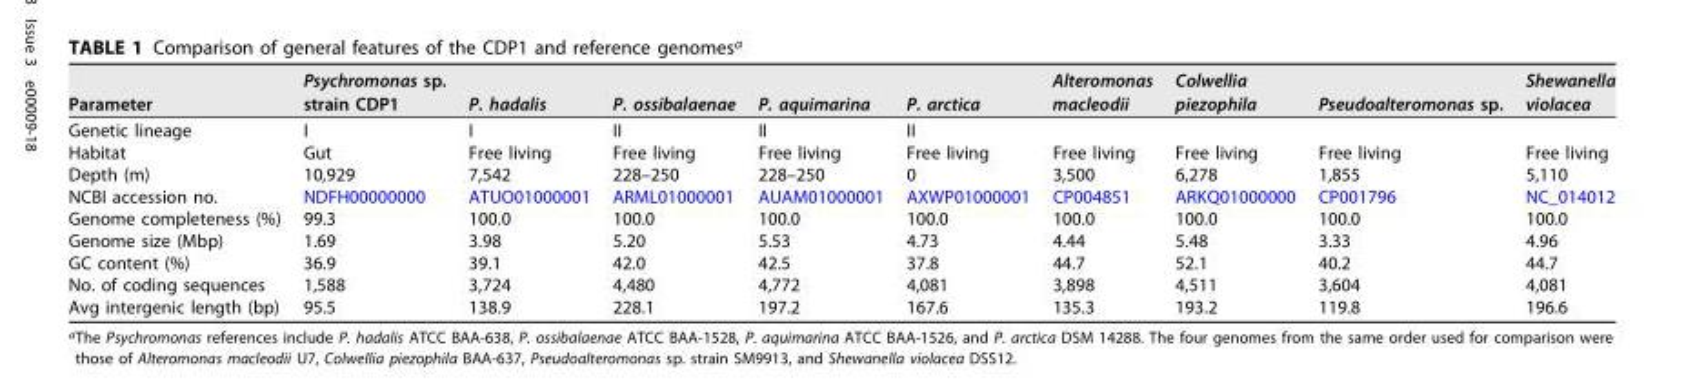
<table><thead><tr><td>Parameter</td><td>Psychromonas sp. strain CDP1</td><td>P. hadalis</td><td>P. ossibalaenae</td><td>P. aquimarina</td><td>P. arctica</td><td>Alteromonas macleodii</td><td>Colwellia piezophila</td><td>Pseudoalteromonas sp.</td><td>Shewanella violacea</td></tr></thead><tbody><tr><td>Genetic lineage</td><td>I</td><td>I</td><td>II</td><td>II</td><td>II</td><td></td><td></td><td></td><td></td></tr><tr><td>Habitat</td><td>Gut</td><td>Free living</td><td>Free living</td><td>Free living</td><td>Free living</td><td>Free living</td><td>Free living</td><td>Free living</td><td>Free living</td></tr><tr><td>Depth (m)</td><td>10,929</td><td>7,542</td><td>228–250</td><td>228–250</td><td>0</td><td>3,500</td><td>6,278</td><td>1,855</td><td>5,110</td></tr><tr><td>NCBI accession no.</td><td>NDFH00000000</td><td>ATUO01000001</td><td>ARML01000001</td><td>AUAM01000001</td><td>AXWP01000001</td><td>CP004851</td><td>ARKQ01000000</td><td>CP001796</td><td>NC_014012</td></tr><tr><td>Genome completeness (%)</td><td>99.3</td><td>100.0</td><td>100.0</td><td>100.0</td><td>100.0</td><td>100.0</td><td>100.0</td><td>100.0</td><td>100.0</td></tr><tr><td>Genome size (Mbp)</td><td>1.69</td><td>3.98</td><td>5.20</td><td>5.53</td><td>4.73</td><td>4.44</td><td>5.48</td><td>3.33</td><td>4.96</td></tr><tr><td>GC content (%)</td><td>36.9</td><td>39.1</td><td>42.0</td><td>42.5</td><td>37.8</td><td>44.7</td><td>52.1</td><td>40.2</td><td>44.7</td></tr><tr><td>No. of coding sequences</td><td>1,588</td><td>3,724</td><td>4,480</td><td>4,772</td><td>4,081</td><td>3,898</td><td>4,511</td><td>3,604</td><td>4,081</td></tr><tr><td>Avg intergenic length (bp)</td><td>95.5</td><td>138.9</td><td>228.1</td><td>197.2</td><td>167.6</td><td>135.3</td><td>193.2</td><td>119.8</td><td>196.6</td></tr></tbody></table>